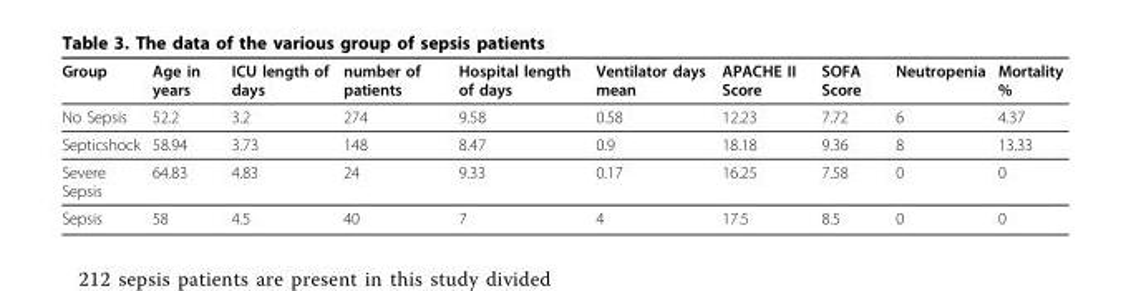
<table><thead><tr><td>Group</td><td>Age in years</td><td>ICU length of days</td><td>number of patients</td><td>Hospital length of days</td><td>Ventilator days mean</td><td>APACHE II Score</td><td>SOFA Score</td><td>Neutropenia</td><td>Mortality %</td></tr></thead><tbody><tr><td>No Sepsis</td><td>52.2</td><td>3.2</td><td>274</td><td>9.58</td><td>0.58</td><td>12.23</td><td>7.72</td><td>6</td><td>4.37</td></tr><tr><td>Septicshock</td><td>58.94</td><td>3.73</td><td>148</td><td>8.47</td><td>0.9</td><td>18.18</td><td>9.36</td><td>8</td><td>13.33</td></tr><tr><td>Severe Sepsis</td><td>64.83</td><td>4.83</td><td>24</td><td>9.33</td><td>0.17</td><td>16.25</td><td>7.58</td><td>0</td><td>0</td></tr><tr><td>Sepsis</td><td>58</td><td>4.5</td><td>40</td><td>7</td><td>4</td><td>17.5</td><td>8.5</td><td>0</td><td>0</td></tr></tbody></table>